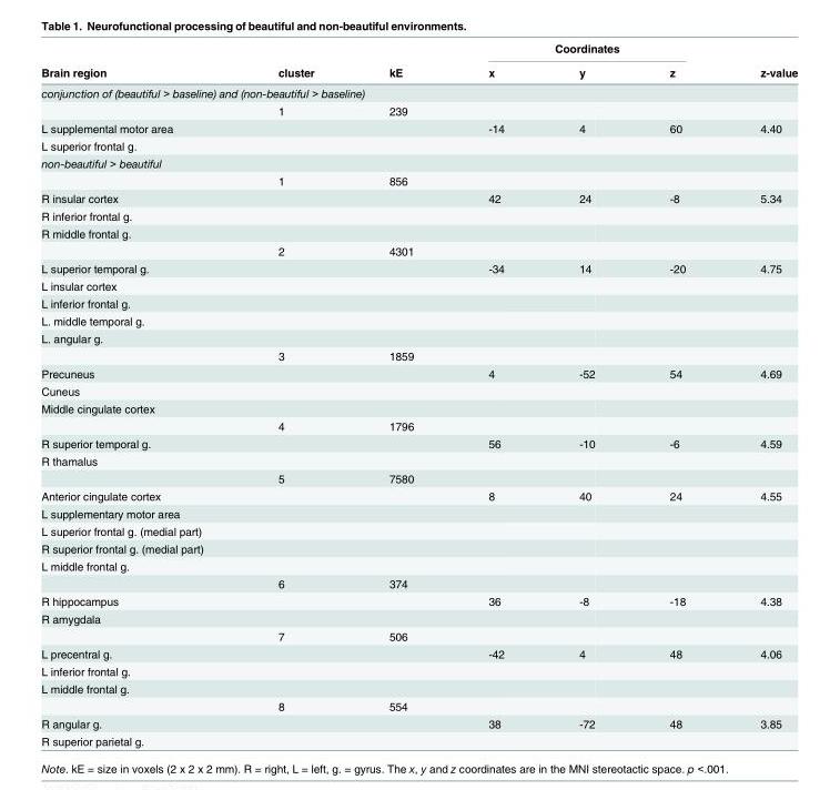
<table><thead><tr><td rowspan="2">Brain region</td><td rowspan="2">cluster</td><td rowspan="2">kE</td><td colspan="3">Coordinates</td><td rowspan="2">z-value</td></tr><tr><td>x</td><td>y</td><td>z</td></tr></thead><tbody><tr><td colspan="7">conjunction of (beautiful &gt; baseline) and (non-beautiful &gt; baseline)</td></tr><tr><td></td><td>1</td><td>239</td><td></td><td></td><td></td><td></td></tr><tr><td>L supplemental motor area</td><td></td><td></td><td>-14</td><td>4</td><td>60</td><td>4.40</td></tr><tr><td colspan="7">L superior frontal g.</td></tr><tr><td colspan="7">non-beautiful &gt; beautiful</td></tr><tr><td></td><td>1</td><td>856</td><td></td><td></td><td></td><td></td></tr><tr><td>R insular cortex</td><td></td><td></td><td>42</td><td>24</td><td>-8</td><td>5.34</td></tr><tr><td colspan="7">R inferior frontal g.</td></tr><tr><td colspan="7">R middle frontal g.</td></tr><tr><td></td><td>2</td><td>4301</td><td></td><td></td><td></td><td></td></tr><tr><td>L superior temporal g.</td><td></td><td></td><td>-34</td><td>14</td><td>-20</td><td>4.75</td></tr><tr><td colspan="7">L insular cortex</td></tr><tr><td colspan="7">L inferior frontal g.</td></tr><tr><td colspan="7">L. middle temporal g.</td></tr><tr><td colspan="7">L. angular g.</td></tr><tr><td></td><td>3</td><td>1859</td><td></td><td></td><td></td><td></td></tr><tr><td>Precuneus</td><td></td><td></td><td>4</td><td>-52</td><td>54</td><td>4.69</td></tr><tr><td colspan="7">Cuneus</td></tr><tr><td colspan="7">Middle cingulate cortex</td></tr><tr><td></td><td>4</td><td>1796</td><td></td><td></td><td></td><td></td></tr><tr><td>R superior temporal g.</td><td></td><td></td><td>56</td><td>-10</td><td>-6</td><td>4.59</td></tr><tr><td colspan="7">R thamalus</td></tr><tr><td></td><td>5</td><td>7580</td><td></td><td></td><td></td><td></td></tr><tr><td>Anterior cingulate cortex</td><td></td><td></td><td>8</td><td>40</td><td>24</td><td>4.55</td></tr><tr><td colspan="7">L supplementary motor area</td></tr><tr><td colspan="7">L superior frontal g. (medial part)</td></tr><tr><td colspan="7">R superior frontal g. (medial part)</td></tr><tr><td colspan="7">L middle frontal g.</td></tr><tr><td></td><td>6</td><td>374</td><td></td><td></td><td></td><td></td></tr><tr><td>R hippocampus</td><td></td><td></td><td>36</td><td>-8</td><td>-18</td><td>4.38</td></tr><tr><td colspan="7">R amygdala</td></tr><tr><td></td><td>7</td><td>506</td><td></td><td></td><td></td><td></td></tr><tr><td>L precentral g.</td><td></td><td></td><td>-42</td><td>4</td><td>48</td><td>4.06</td></tr><tr><td colspan="7">L inferior frontal g.</td></tr><tr><td colspan="7">L middle frontal g.</td></tr><tr><td></td><td>8</td><td>554</td><td></td><td></td><td></td><td></td></tr><tr><td>R angular g.</td><td></td><td></td><td>38</td><td>-72</td><td>48</td><td>3.85</td></tr><tr><td>R superior parietal g.</td><td></td><td></td><td></td><td></td><td></td><td></td></tr></tbody></table>